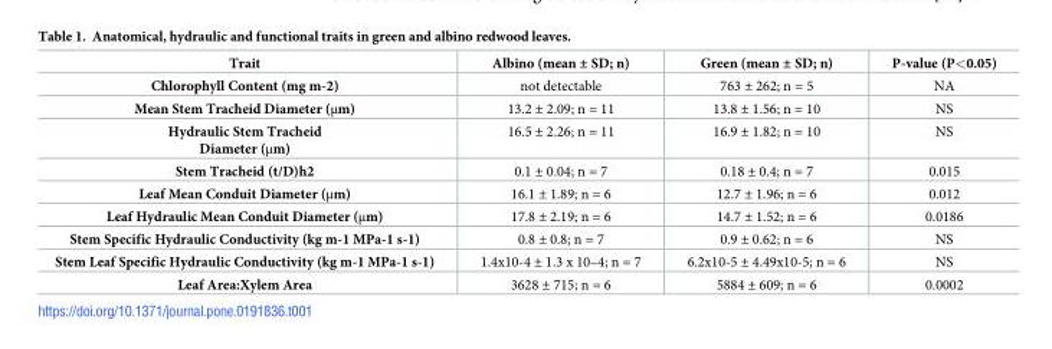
<table><thead><tr><td>Trait</td><td>Albino (mean ± SD; n)</td><td>Green (mean ± SD; n)</td><td>P-value (P&lt;0.05)</td></tr></thead><tbody><tr><td>Chlorophyll Content (mg m-2)</td><td>not detectable</td><td>763 ± 262; n = 5</td><td>NA</td></tr><tr><td>Mean Stem Tracheid Diameter (μm)</td><td>13.2 ± 2.09; n = 11</td><td>13.8 ± 1.56; n = 10</td><td>NS</td></tr><tr><td>Hydraulic Stem Tracheid Diameter (μm)</td><td>16.5 ± 2.26; n = 11</td><td>16.9 ± 1.82; n = 10</td><td>NS</td></tr><tr><td>Stem Tracheid (t/D)h2</td><td>0.1 ± 0.04; n = 7</td><td>0.18 ± 0.4; n = 7</td><td>0.015</td></tr><tr><td>Leaf Mean Conduit Diameter (μm)</td><td>16.1 ± 1.89; n = 6</td><td>12.7 ± 1.96; n = 6</td><td>0.012</td></tr><tr><td>Leaf Hydraulic Mean Conduit Diameter (μm)</td><td>17.8 ± 2.19; n = 6</td><td>14.7 ± 1.52; n = 6</td><td>0.0186</td></tr><tr><td>Stem Specific Hydraulic Conductivity (kg m-1 MPa-1 s-1)</td><td>0.8 ± 0.8; n = 7</td><td>0.9 ± 0.62; n = 6</td><td>NS</td></tr><tr><td>Stem Leaf Specific Hydraulic Conductivity (kg m-1 MPa-1 s-1)</td><td>1.4x10-4 ± 1.3 x 10–4; n = 7</td><td>6.2x10-5 ± 4.49x10-5; n = 6</td><td>NS</td></tr><tr><td>Leaf Area:Xylem Area</td><td>3628 ± 715; n = 6</td><td>5884 ± 609; n = 6</td><td>0.0002</td></tr></tbody></table>